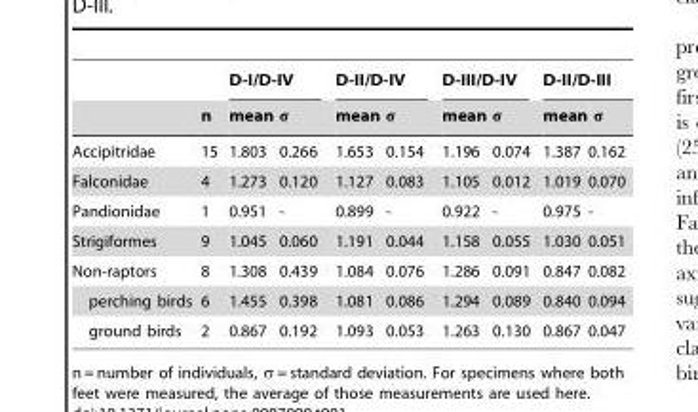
<table><thead><tr><td rowspan="2"></td><td rowspan="2">n</td><td colspan="2">D-I/D-IV</td><td colspan="2">D-II/D-IV</td><td colspan="2">D-III/D-IV</td><td colspan="2">D-II/D-III</td></tr><tr><td>mean</td><td>σ</td><td>mean</td><td>σ</td><td>mean</td><td>σ</td><td>mean</td><td>σ</td></tr></thead><tbody><tr><td>Accipitridae</td><td>15</td><td>1.803</td><td>0.266</td><td>1.653</td><td>0.154</td><td>1.196</td><td>0.074</td><td>1.387</td><td>0.162</td></tr><tr><td>Falconidae</td><td>4</td><td>1.273</td><td>0.120</td><td>1.127</td><td>0.083</td><td>1.105</td><td>0.012</td><td>1.019</td><td>0.070</td></tr><tr><td>Pandionidae</td><td>1</td><td>0.951</td><td>-</td><td>0.899</td><td>-</td><td>0.922</td><td>-</td><td>0.975</td><td>-</td></tr><tr><td>Strigiformes</td><td>9</td><td>1.045</td><td>0.060</td><td>1.191</td><td>0.044</td><td>1.158</td><td>0.055</td><td>1.030</td><td>0.051</td></tr><tr><td>Non-raptors</td><td>8</td><td>1.308</td><td>0.439</td><td>1.084</td><td>0.076</td><td>1.286</td><td>0.091</td><td>0.847</td><td>0.082</td></tr><tr><td>perching birds</td><td>6</td><td>1.455</td><td>0.398</td><td>1.081</td><td>0.086</td><td>1.294</td><td>0.089</td><td>0.840</td><td>0.094</td></tr><tr><td>ground birds</td><td>2</td><td>0.867</td><td>0.192</td><td>1.093</td><td>0.053</td><td>1.263</td><td>0.130</td><td>0.867</td><td>0.047</td></tr></tbody></table>